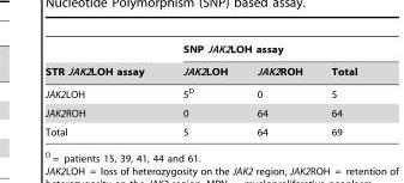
<table><thead><tr><td rowspan="2">STR JAK2LOH assay</td><td colspan="3">SNP JAK2LOH assay</td></tr><tr><td>JAK2LOH</td><td>JAK2ROH</td><td>Total</td></tr></thead><tbody><tr><td>JAK2LOH</td><td>5<sup>D</sup></td><td>0</td><td>5</td></tr><tr><td>JAK2ROH</td><td>0</td><td>64</td><td>64</td></tr><tr><td>Total</td><td>5</td><td>64</td><td>69</td></tr></tbody></table>